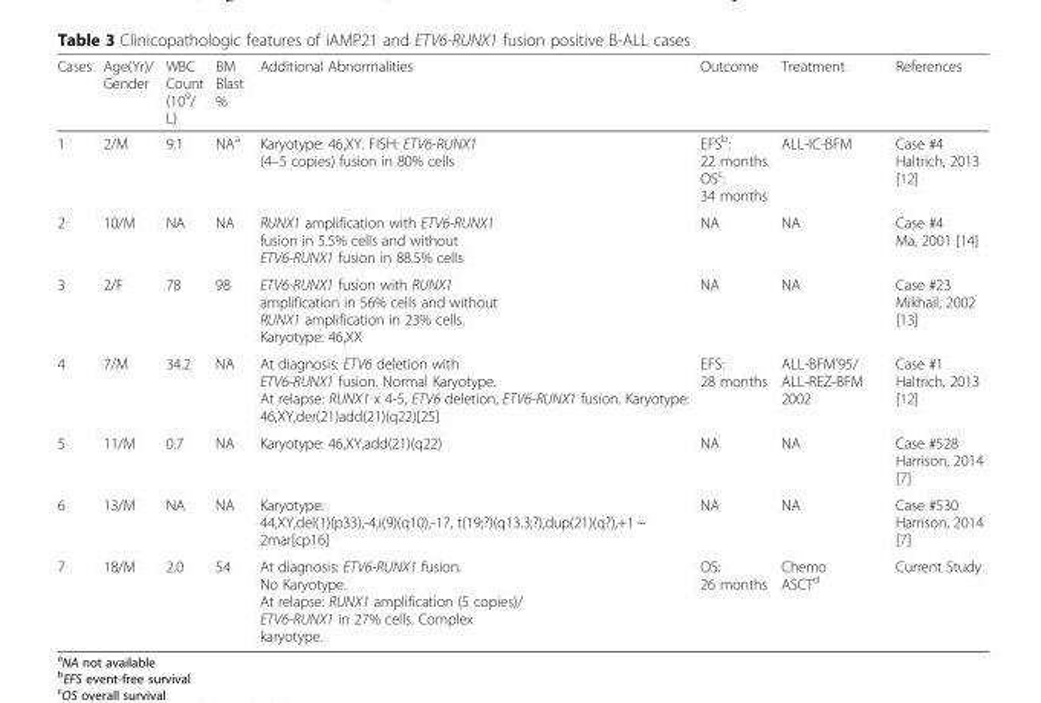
<table><thead><tr><td>Cases</td><td>Age(Yr)/ Gender</td><td>WBC Count (10<sup>9</sup>/ L)</td><td>BM Blast %</td><td>Additional Abnormalities</td><td>Outcome</td><td>Treatment</td><td>References</td></tr></thead><tbody><tr><td>1</td><td>2/M</td><td>9.1</td><td>NA<sup>a</sup></td><td>Karyotype: 46,XY. FISH: ETV6-RUNX1 (4–5 copies) fusion in 80% cells</td><td>EFS<sup>b</sup>: 22 months. OS<sup>c</sup>: 34 months</td><td>ALL-IC-BFM</td><td>Case #4 Haltrich, 2013 [12]</td></tr><tr><td>2</td><td>10/M</td><td>NA</td><td>NA</td><td>RUNX1 amplification with ETV6-RUNX1 fusion in 5.5% cells and without ETV6-RUNX1 fusion in 88.5% cells</td><td>NA</td><td>NA</td><td>Case #4 Ma, 2001 [14]</td></tr><tr><td>3</td><td>2/F</td><td>78</td><td>98</td><td>ETV6-RUNX1 fusion with RUNX1 amplification in 56% cells and without RUNX1 amplification in 23% cells. Karyotype: 46,XX</td><td>NA</td><td>NA</td><td>Case #23 Mikhail, 2002 [13]</td></tr><tr><td>4</td><td>7/M</td><td>34.2</td><td>NA</td><td>At diagnosis: ETV6 deletion with ETV6-RUNX1 fusion. Normal Karyotype. At relapse: RUNX1 x 4-5, ETV6 deletion, ETV6-RUNX1 fusion. Karyotype: 46,XY,der(21)add(21)(q22)[25]</td><td>EFS: 28 months</td><td>ALL-BFM’95/ ALL-REZ-BFM 2002</td><td>Case #1 Haltrich, 2013 [12]</td></tr><tr><td>5</td><td>11/M</td><td>0.7</td><td>NA</td><td>Karyotype: 46,XY,add(21)(q22)</td><td>NA</td><td>NA</td><td>Case #528 Harrison, 2014 [7]</td></tr><tr><td>6</td><td>13/M</td><td>NA</td><td>NA</td><td>Karyotype: 44,XY,del(1)(p33),-4,i(9)(q10),-17, t(19;?)(q13.3;?),dup(21)(q?),+1 ~ 2mar[cp16]</td><td>NA</td><td>NA</td><td>Case #530 Harrison, 2014 [7]</td></tr><tr><td>7</td><td>18/M</td><td>2.0</td><td>54</td><td>At diagnosis: ETV6-RUNX1 fusion. No Karyotype. At relapse: RUNX1 amplification (5 copies)/ ETV6-RUNX1 in 27% cells. Complex karyotype.</td><td>OS: 26 months</td><td>Chemo ASCT<sup>d</sup></td><td>Current Study</td></tr></tbody></table>